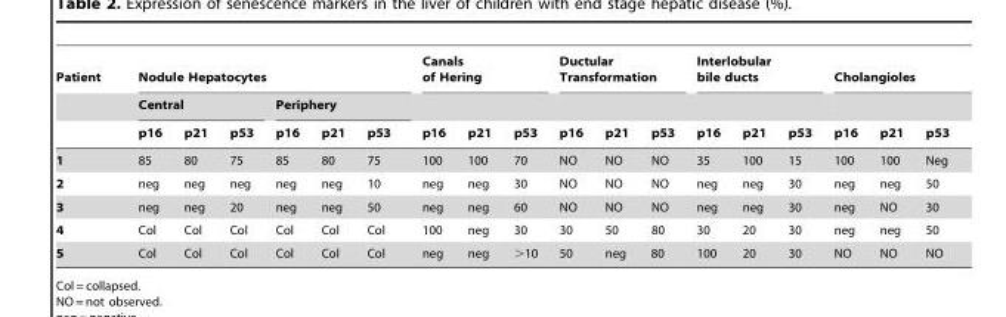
<table><thead><tr><td rowspan="3">Patient</td><td colspan="6">Nodule Hepatocytes</td><td colspan="3">Canals of Hering</td><td colspan="3">Ductular Transformation</td><td colspan="3">Interlobular bile ducts</td><td colspan="3">Cholangioles</td></tr><tr><td colspan="3">Central</td><td colspan="3">Periphery</td><td rowspan="2">p16</td><td rowspan="2">p21</td><td rowspan="2">p53</td><td rowspan="2">p16</td><td rowspan="2">p21</td><td rowspan="2">p53</td><td rowspan="2">p16</td><td rowspan="2">p21</td><td rowspan="2">p53</td><td rowspan="2">p16</td><td rowspan="2">p21</td><td rowspan="2">p53</td></tr><tr><td>p16</td><td>p21</td><td>p53</td><td>p16</td><td>p21</td><td>p53</td></tr></thead><tbody><tr><td>1</td><td>85</td><td>80</td><td>75</td><td>85</td><td>80</td><td>75</td><td>100</td><td>100</td><td>70</td><td>NO</td><td>NO</td><td>NO</td><td>35</td><td>100</td><td>15</td><td>100</td><td>100</td><td>Neg</td></tr><tr><td>2</td><td>neg</td><td>neg</td><td>neg</td><td>neg</td><td>neg</td><td>10</td><td>neg</td><td>neg</td><td>30</td><td>NO</td><td>NO</td><td>NO</td><td>neg</td><td>neg</td><td>30</td><td>neg</td><td>neg</td><td>50</td></tr><tr><td>3</td><td>neg</td><td>neg</td><td>20</td><td>neg</td><td>neg</td><td>50</td><td>neg</td><td>neg</td><td>60</td><td>NO</td><td>NO</td><td>NO</td><td>neg</td><td>neg</td><td>30</td><td>neg</td><td>NO</td><td>30</td></tr><tr><td>4</td><td>Col</td><td>Col</td><td>Col</td><td>Col</td><td>Col</td><td>Col</td><td>100</td><td>neg</td><td>30</td><td>30</td><td>50</td><td>80</td><td>30</td><td>20</td><td>30</td><td>neg</td><td>neg</td><td>50</td></tr><tr><td>5</td><td>Col</td><td>Col</td><td>Col</td><td>Col</td><td>Col</td><td>Col</td><td>neg</td><td>neg</td><td>&gt;10</td><td>50</td><td>neg</td><td>80</td><td>100</td><td>20</td><td>30</td><td>NO</td><td>NO</td><td>NO</td></tr></tbody></table>